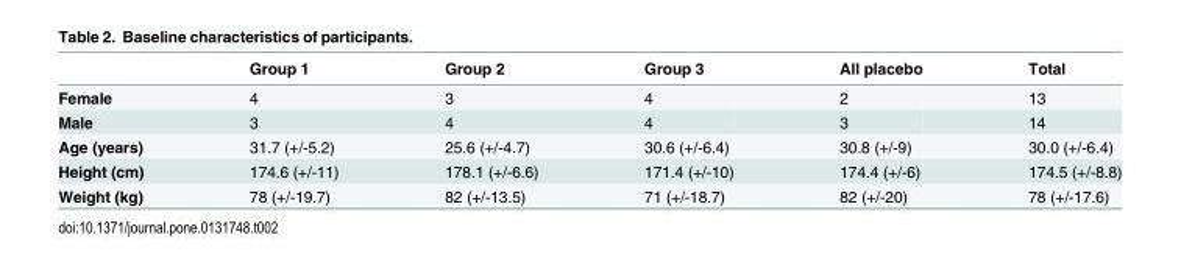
<table><thead><tr><td></td><td>Group 1</td><td>Group 2</td><td>Group 3</td><td>All placebo</td><td>Total</td></tr></thead><tbody><tr><td>Female</td><td>4</td><td>3</td><td>4</td><td>2</td><td>13</td></tr><tr><td>Male</td><td>3</td><td>4</td><td>4</td><td>3</td><td>14</td></tr><tr><td>Age (years)</td><td>31.7 (+/-5.2)</td><td>25.6 (+/-4.7)</td><td>30.6 (+/-6.4)</td><td>30.8 (+/-9)</td><td>30.0 (+/-6.4)</td></tr><tr><td>Height (cm)</td><td>174.6 (+/-11)</td><td>178.1 (+/-6.6)</td><td>171.4 (+/-10)</td><td>174.4 (+/-6)</td><td>174.5 (+/-8.8)</td></tr><tr><td>Weight (kg)</td><td>78 (+/-19.7)</td><td>82 (+/-13.5)</td><td>71 (+/-18.7)</td><td>82 (+/-20)</td><td>78 (+/-17.6)</td></tr></tbody></table>